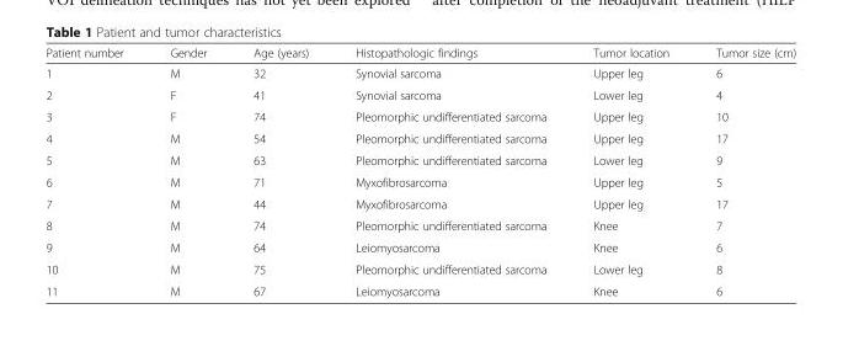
<table><thead><tr><td>Patient number</td><td>Gender</td><td>Age (years)</td><td>Histopathologic findings</td><td>Tumor location</td><td>Tumor size (cm)</td></tr></thead><tbody><tr><td>1</td><td>M</td><td>32</td><td>Synovial sarcoma</td><td>Upper leg</td><td>6</td></tr><tr><td>2</td><td>F</td><td>41</td><td>Synovial sarcoma</td><td>Lower leg</td><td>4</td></tr><tr><td>3</td><td>F</td><td>74</td><td>Pleomorphic undifferentiated sarcoma</td><td>Upper leg</td><td>10</td></tr><tr><td>4</td><td>M</td><td>54</td><td>Pleomorphic undifferentiated sarcoma</td><td>Upper leg</td><td>17</td></tr><tr><td>5</td><td>M</td><td>63</td><td>Pleomorphic undifferentiated sarcoma</td><td>Lower leg</td><td>9</td></tr><tr><td>6</td><td>M</td><td>71</td><td>Myxofibrosarcoma</td><td>Upper leg</td><td>5</td></tr><tr><td>7</td><td>M</td><td>44</td><td>Myxofibrosarcoma</td><td>Upper leg</td><td>17</td></tr><tr><td>8</td><td>M</td><td>74</td><td>Pleomorphic undifferentiated sarcoma</td><td>Knee</td><td>7</td></tr><tr><td>9</td><td>M</td><td>64</td><td>Leiomyosarcoma</td><td>Knee</td><td>6</td></tr><tr><td>10</td><td>M</td><td>75</td><td>Pleomorphic undifferentiated sarcoma</td><td>Lower leg</td><td>8</td></tr><tr><td>11</td><td>M</td><td>67</td><td>Leiomyosarcoma</td><td>Knee</td><td>6</td></tr></tbody></table>